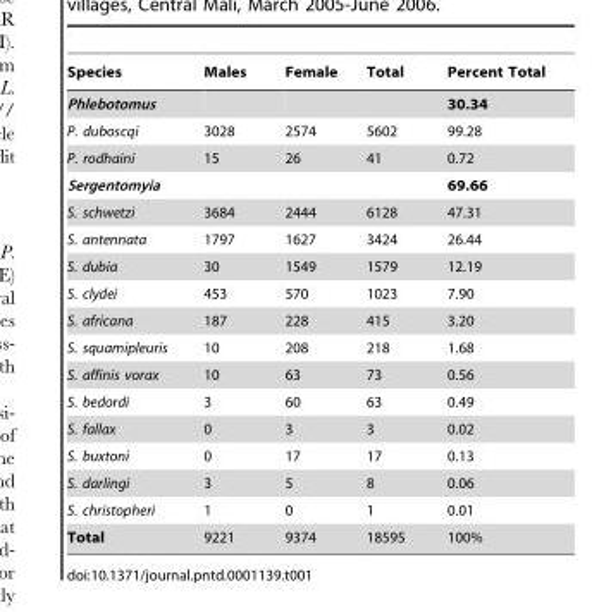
<table><thead><tr><td>Species</td><td>Males</td><td>Female</td><td>Total</td><td>Percent Total</td></tr></thead><tbody><tr><td>Phlebotomus</td><td></td><td></td><td></td><td>30.34</td></tr><tr><td>P. duboscqi</td><td>3028</td><td>2574</td><td>5602</td><td>99.28</td></tr><tr><td>P. rodhaini</td><td>15</td><td>26</td><td>41</td><td>0.72</td></tr><tr><td>Sergentomyia</td><td></td><td></td><td></td><td>69.66</td></tr><tr><td>S. schwetzi</td><td>3684</td><td>2444</td><td>6128</td><td>47.31</td></tr><tr><td>S. antennata</td><td>1797</td><td>1627</td><td>3424</td><td>26.44</td></tr><tr><td>S. dubia</td><td>30</td><td>1549</td><td>1579</td><td>12.19</td></tr><tr><td>S. clydei</td><td>453</td><td>570</td><td>1023</td><td>7.90</td></tr><tr><td>S. africana</td><td>187</td><td>228</td><td>415</td><td>3.20</td></tr><tr><td>S. squamipleuris</td><td>10</td><td>208</td><td>218</td><td>1.68</td></tr><tr><td>S. affinis vorax</td><td>10</td><td>63</td><td>73</td><td>0.56</td></tr><tr><td>S. bedordi</td><td>3</td><td>60</td><td>63</td><td>0.49</td></tr><tr><td>S. fallax</td><td>0</td><td>3</td><td>3</td><td>0.02</td></tr><tr><td>S. buxtoni</td><td>0</td><td>17</td><td>17</td><td>0.13</td></tr><tr><td>S. darlingi</td><td>3</td><td>5</td><td>8</td><td>0.06</td></tr><tr><td>S. christopheri</td><td>1</td><td>0</td><td>1</td><td>0.01</td></tr><tr><td>Total</td><td>9221</td><td>9374</td><td>18595</td><td>100%</td></tr></tbody></table>